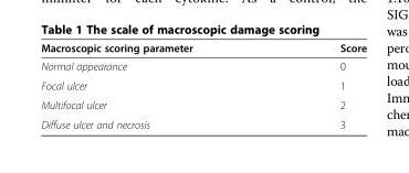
<table><thead><tr><td>Macroscopic scoring parameter</td><td>Score</td></tr></thead><tbody><tr><td>Normal appearance</td><td>0</td></tr><tr><td>Focal ulcer</td><td>1</td></tr><tr><td>Multifocal ulcer</td><td>2</td></tr><tr><td>Diffuse ulcer and necrosis</td><td>3</td></tr></tbody></table>